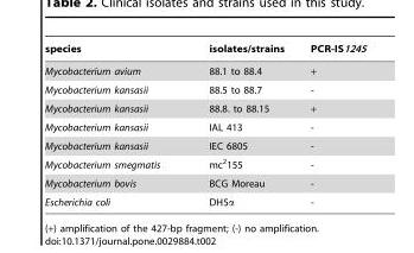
<table><thead><tr><td>species</td><td>isolates/strains</td><td>PCR-IS1245</td></tr></thead><tbody><tr><td>Mycobacterium avium</td><td>88.1 to 88.4</td><td>+</td></tr><tr><td>Mycobacterium kansasii</td><td>88.5 to 88.7</td><td>-</td></tr><tr><td>Mycobacterium kansasii</td><td>88.8. to 88.15</td><td>+</td></tr><tr><td>Mycobacterium kansasii</td><td>IAL 413</td><td>-</td></tr><tr><td>Mycobacterium kansasii</td><td>IEC 6805</td><td>-</td></tr><tr><td>Mycobacterium smegmatis</td><td>mc<sup>2</sup>155</td><td>-</td></tr><tr><td>Mycobacterium bovis</td><td>BCG Moreau</td><td>-</td></tr><tr><td>Escherichia coli</td><td>DH5α</td><td>-</td></tr></tbody></table>